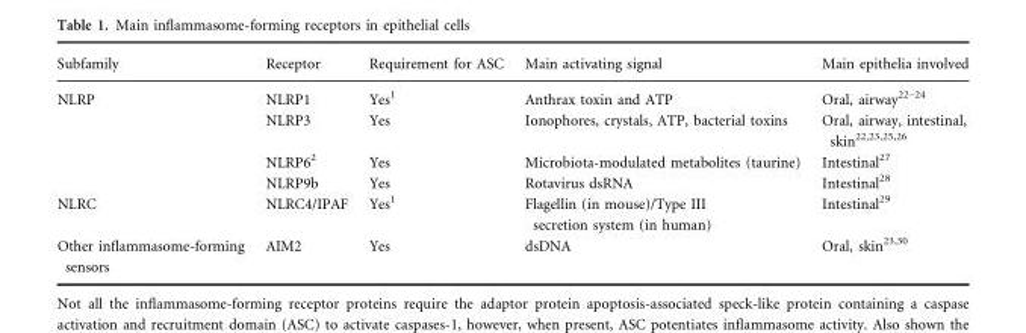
<table><thead><tr><td>Subfamily</td><td>Receptor</td><td>Requirement for ASC</td><td>Main activating signal</td><td>Main epithelia involved</td></tr></thead><tbody><tr><td rowspan="4">NLRP</td><td>NLRP1</td><td>Yes1</td><td>Anthrax toxin and ATP</td><td>Oral, airway22–24</td></tr><tr><td>NLRP3</td><td>Yes</td><td>Ionophores, crystals, ATP, bacterial toxins</td><td>Oral, airway, intestinal, skin<sup>22</sup>,<sup>23</sup>,<sup>25</sup>,<sup>26</sup></td></tr><tr><td>NLRP62</td><td>Yes</td><td>Microbiota-modulated metabolites (taurine)</td><td>Intestinal<sup>27</sup></td></tr><tr><td>NLRP9b</td><td>Yes</td><td>Rotavirus dsRNA</td><td>Intestinal<sup>28</sup></td></tr><tr><td>NLRC</td><td>NLRC4/IPAF</td><td>Yes1</td><td>Flagellin (in mouse)/Type III secretion system (in human)</td><td>Intestinal<sup>29</sup></td></tr><tr><td>Other inflammasome-forming sensors</td><td>AIM2</td><td>Yes</td><td>dsDNA</td><td>Oral, skin<sup>23</sup>,<sup>30</sup></td></tr></tbody></table>